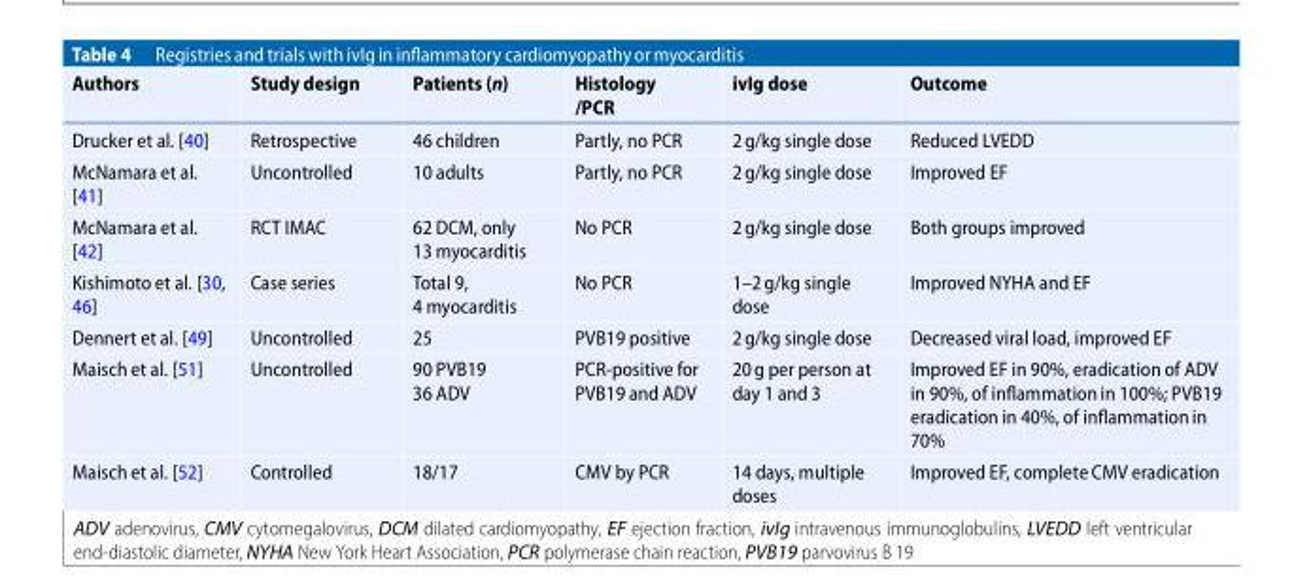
<table><thead><tr><td>Authors</td><td>Study design</td><td>Patients (n)</td><td>Histology /PCR</td><td>ivIg dose</td><td>Outcome</td></tr></thead><tbody><tr><td>Drucker et al. [40]</td><td>Retrospective</td><td>46 children</td><td>Partly, no PCR</td><td>2g/kg single dose</td><td>Reduced LVEDD</td></tr><tr><td>McNamara et al. [41]</td><td>Uncontrolled</td><td>10 adults</td><td>Partly, no PCR</td><td>2g/kg single dose</td><td>Improved EF</td></tr><tr><td>McNamara et al. [42]</td><td>RCT IMAC</td><td>62 DCM, only 13 myocarditis</td><td>No PCR</td><td>2g/kg single dose</td><td>Both groups improved</td></tr><tr><td>Kishimoto et al. [30, 46]</td><td>Case series</td><td>Total 9, 4 myocarditis</td><td>No PCR</td><td>1–2g/kg single dose</td><td>Improved NYHA and EF</td></tr><tr><td>Dennert et al. [49]</td><td>Uncontrolled</td><td>25</td><td>PVB19 positive</td><td>2g/kg single dose</td><td>Decreased viral load, improved EF</td></tr><tr><td>Maisch et al. [51]</td><td>Uncontrolled</td><td>90 PVB19 36 ADV</td><td>PCR-positive for PVB19 and ADV</td><td>20g per person at day 1 and 3</td><td>Improved EF in 90%, eradication of ADV in 90%, of inflammation in 100%; PVB19 eradication in 40%, of inflammation in 70%</td></tr><tr><td>Maisch et al. [52]</td><td>Controlled</td><td>18/17</td><td>CMV by PCR</td><td>14 days, multiple doses</td><td>Improved EF, complete CMV eradication</td></tr></tbody></table>